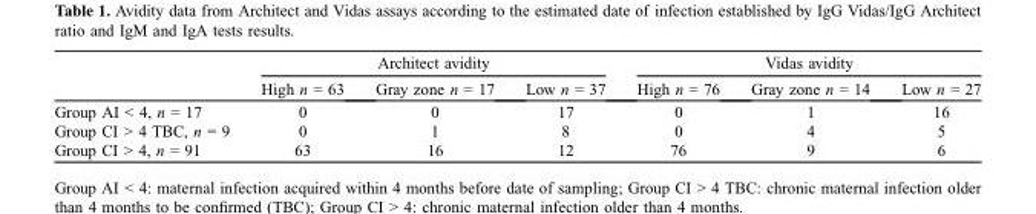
<table><thead><tr><td rowspan="2"></td><td colspan="3">Architect avidity</td><td colspan="3">Vidas avidity</td></tr><tr><td>High n = 63</td><td>Gray zone n = 17</td><td>Low n = 37</td><td>High n = 76</td><td>Gray zone n = 14</td><td>Low n = 27</td></tr></thead><tbody><tr><td>Group AI &lt; 4, n = 17</td><td>0</td><td>0</td><td>17</td><td>0</td><td>1</td><td>16</td></tr><tr><td>Group CI &gt; 4 TBC, n = 9</td><td>0</td><td>1</td><td>8</td><td>0</td><td>4</td><td>5</td></tr><tr><td>Group CI &gt; 4, n = 91</td><td>63</td><td>16</td><td>12</td><td>76</td><td>9</td><td>6</td></tr></tbody></table>